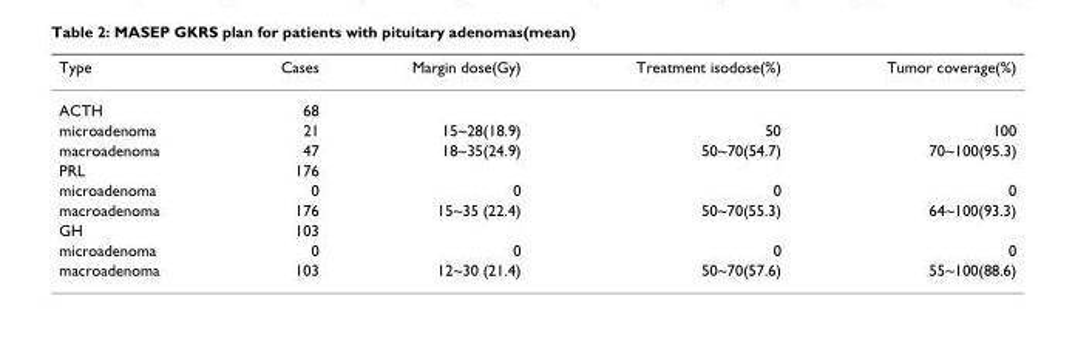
<table><thead><tr><td>Type</td><td>Cases</td><td>Margin dose(Gy)</td><td>Treatment isodose(%)</td><td>Tumor coverage(%)</td></tr></thead><tbody><tr><td>ACTH</td><td>68</td><td></td><td></td><td></td></tr><tr><td>microadenoma</td><td>21</td><td>15~28(18.9)</td><td>50</td><td>100</td></tr><tr><td>macroadenoma</td><td>47</td><td>18~35(24.9)</td><td>50~70(54.7)</td><td>70~100(95.3)</td></tr><tr><td>PRL</td><td>176</td><td></td><td></td><td></td></tr><tr><td>microadenoma</td><td>0</td><td>0</td><td>0</td><td>0</td></tr><tr><td>macroadenoma</td><td>176</td><td>15~35 (22.4)</td><td>50~70(55.3)</td><td>64~100(93.3)</td></tr><tr><td>GH</td><td>103</td><td></td><td></td><td></td></tr><tr><td>microadenoma</td><td>0</td><td>0</td><td>0</td><td>0</td></tr><tr><td>macroadenoma</td><td>103</td><td>12~30 (21.4)</td><td>50~70(57.6)</td><td>55~100(88.6)</td></tr></tbody></table>